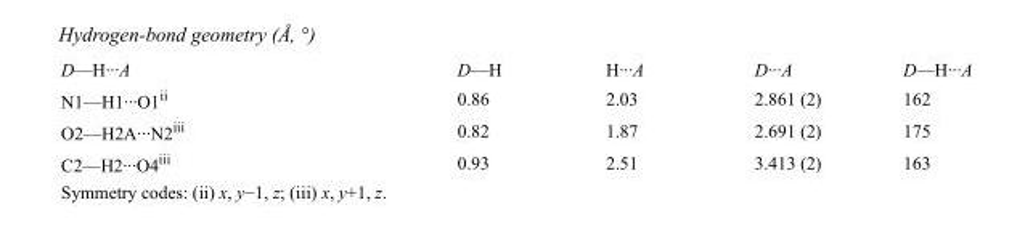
<table><tbody><tr><td>D—H···A</td><td>D—H</td><td>H···A</td><td>D···A</td><td>D—H···A</td></tr><tr><td>N1—H1···O1<sup>ii</sup></td><td>0.86</td><td>2.03</td><td>2.861 (2)</td><td>162</td></tr><tr><td>O2—H2A···N2<sup>iii</sup></td><td>0.82</td><td>1.87</td><td>2.691 (2)</td><td>175</td></tr><tr><td>C2—H2···O4<sup>iii</sup></td><td>0.93</td><td>2.51</td><td>3.413 (2)</td><td>163</td></tr></tbody></table>